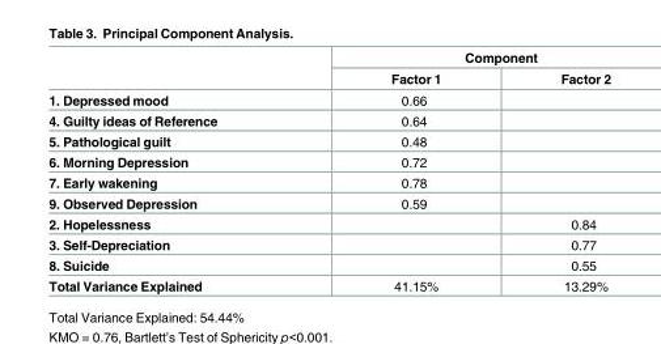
<table><thead><tr><td rowspan="2"></td><td colspan="2">Component</td></tr><tr><td>Factor 1</td><td>Factor 2</td></tr></thead><tbody><tr><td>1. Depressed mood</td><td>0.66</td><td></td></tr><tr><td>4. Guilty ideas of Reference</td><td>0.64</td><td></td></tr><tr><td>5. Pathological guilt</td><td>0.48</td><td></td></tr><tr><td>6. Morning Depression</td><td>0.72</td><td></td></tr><tr><td>7. Early wakening</td><td>0.78</td><td></td></tr><tr><td>9. Observed Depression</td><td>0.59</td><td></td></tr><tr><td>2. Hopelessness</td><td></td><td>0.84</td></tr><tr><td>3. Self-Depreciation</td><td></td><td>0.77</td></tr><tr><td>8. Suicide</td><td></td><td>0.55</td></tr><tr><td>Total Variance Explained</td><td>41.15%</td><td>13.29%</td></tr></tbody></table>